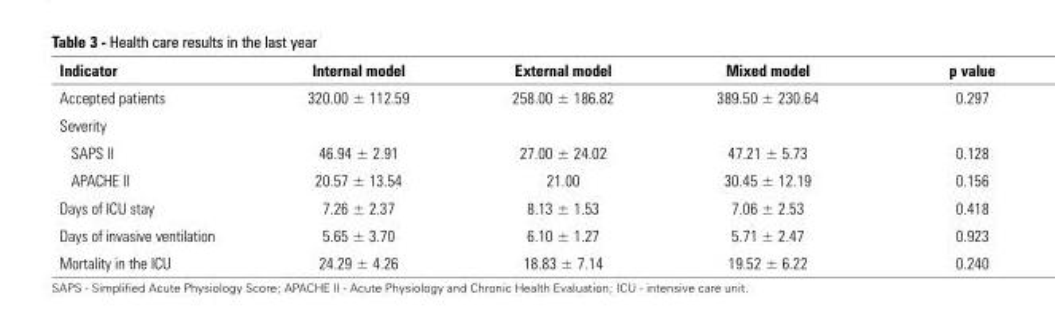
<table><thead><tr><td>Indicator</td><td>Internal model</td><td>External model</td><td>Mixed model</td><td>p value</td></tr></thead><tbody><tr><td>Accepted patients</td><td>320.00 ± 112.59</td><td>258.00 ± 186.82</td><td>389.50 ± 230.64</td><td>0.297</td></tr><tr><td colspan="5">Severity</td></tr><tr><td>SAPS II</td><td>46.94 ± 2.91</td><td>27.00 ± 24.02</td><td>47.21 ± 5.73</td><td>0.128</td></tr><tr><td>APACHE II</td><td>20.57 ± 13.54</td><td>21.00</td><td>30.45 ± 12.19</td><td>0.156</td></tr><tr><td>Days of ICU stay</td><td>7.26 ± 2.37</td><td>8.13 ± 1.53</td><td>7.06 ± 2.53</td><td>0.418</td></tr><tr><td>Days of invasive ventilation</td><td>5.65 ± 3.70</td><td>6.10 ± 1.27</td><td>5.71 ± 2.47</td><td>0.923</td></tr><tr><td>Mortality in the ICU</td><td>24.29 ± 4.26</td><td>18.83 ± 7.14</td><td>19.52 ± 6.22</td><td>0.240</td></tr></tbody></table>